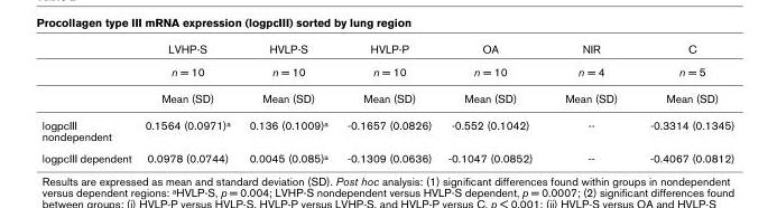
<table><thead><tr><td></td><td>LVHP-S</td><td>HVLP-S</td><td>HVLP-P</td><td>OA</td><td>NIR</td><td>C</td></tr></thead><tbody><tr><td></td><td>n = 10</td><td>n = 10</td><td>n = 10</td><td>n = 10</td><td>n = 4</td><td>n = 5</td></tr><tr><td></td><td>Mean (SD)</td><td>Mean (SD)</td><td>Mean (SD)</td><td>Mean (SD)</td><td>Mean (SD)</td><td>Mean (SD)</td></tr><tr><td>logpcIII nondependent</td><td>0.1564 (0.0971)a</td><td>0.136 (0.1009)a</td><td>-0.1657 (0.0826)</td><td>-0.552 (0.1042)</td><td>--</td><td>-0.3314 (0.1345)</td></tr><tr><td>logpcIII dependent</td><td>0.0978 (0.0744)</td><td>0.0045 (0.085)a</td><td>-0.1309 (0.0636)</td><td>-0.1047 (0.0852)</td><td>--</td><td>-0.4067 (0.0812)</td></tr></tbody></table>